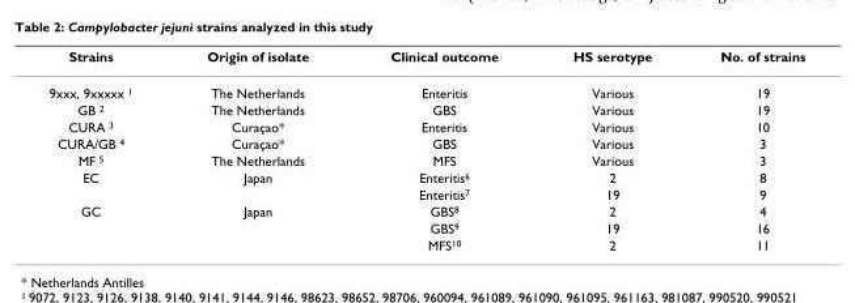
<table><thead><tr><td>Strains</td><td>Origin of isolate</td><td>Clinical outcome</td><td>HS serotype</td><td>No. of strains</td></tr></thead><tbody><tr><td>9xxx, 9xxxxx <sup>1</sup></td><td>The Netherlands</td><td>Enteritis</td><td>Various</td><td>19</td></tr><tr><td>GB <sup>2</sup></td><td>The Netherlands</td><td>GBS</td><td>Various</td><td>19</td></tr><tr><td>CURA <sup>3</sup></td><td>Curaçao*</td><td>Enteritis</td><td>Various</td><td>10</td></tr><tr><td>CURA/GB <sup>4</sup></td><td>Curaçao*</td><td>GBS</td><td>Various</td><td>3</td></tr><tr><td>MF <sup>5</sup></td><td>The Netherlands</td><td>MFS</td><td>Various</td><td>3</td></tr><tr><td rowspan="2">EC</td><td>Japan</td><td>Enteritis<sup>6</sup></td><td>2</td><td>8</td></tr><tr><td></td><td>Enteritis<sup>7</sup></td><td>19</td><td>9</td></tr><tr><td rowspan="3">GC</td><td>Japan</td><td>GBS<sup>8</sup></td><td>2</td><td>4</td></tr><tr><td></td><td>GBS<sup>9</sup></td><td>19</td><td>16</td></tr><tr><td></td><td>MFS<sup>10</sup></td><td>2</td><td>11</td></tr></tbody></table>